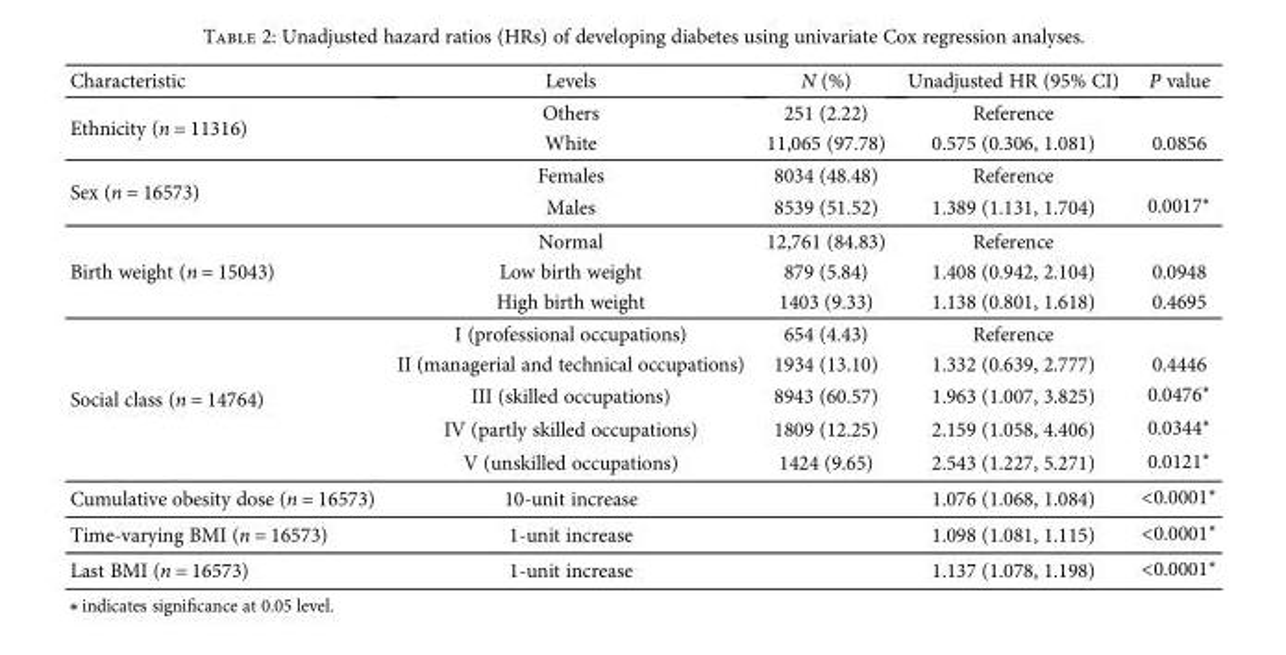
<table><thead><tr><td>Characteristic</td><td>Levels</td><td>N (%)</td><td>Unadjusted HR (95% CI)</td><td>P value</td></tr></thead><tbody><tr><td rowspan="2">Ethnicity (n = 11316)</td><td>Others</td><td>251 (2.22)</td><td>Reference</td><td></td></tr><tr><td>White</td><td>11,065 (97.78)</td><td>0.575 (0.306, 1.081)</td><td>0.0856</td></tr><tr><td rowspan="2">Sex (n = 16573)</td><td>Females</td><td>8034 (48.48)</td><td>Reference</td><td></td></tr><tr><td>Males</td><td>8539 (51.52)</td><td>1.389 (1.131, 1.704)</td><td>0.0017∗</td></tr><tr><td rowspan="3">Birth weight (n = 15043)</td><td>Normal</td><td>12,761 (84.83)</td><td>Reference</td><td></td></tr><tr><td>Low birth weight</td><td>879 (5.84)</td><td>1.408 (0.942, 2.104)</td><td>0.0948</td></tr><tr><td>High birth weight</td><td>1403 (9.33)</td><td>1.138 (0.801, 1.618)</td><td>0.4695</td></tr><tr><td rowspan="5">Social class (n = 14764)</td><td>I (professional occupations)</td><td>654 (4.43)</td><td>Reference</td><td></td></tr><tr><td>II (managerial and technical occupations)</td><td>1934 (13.10)</td><td>1.332 (0.639, 2.777)</td><td>0.4446</td></tr><tr><td>III (skilled occupations)</td><td>8943 (60.57)</td><td>1.963 (1.007, 3.825)</td><td>0.0476∗</td></tr><tr><td>IV (partly skilled occupations)</td><td>1809 (12.25)</td><td>2.159 (1.058, 4.406)</td><td>0.0344∗</td></tr><tr><td>V (unskilled occupations)</td><td>1424 (9.65)</td><td>2.543 (1.227, 5.271)</td><td>0.0121∗</td></tr><tr><td>Cumulative obesity dose (n = 16573)</td><td>10-unit increase</td><td></td><td>1.076 (1.068, 1.084)</td><td>&lt;0.0001∗</td></tr><tr><td>Time-varying BMI (n = 16573)</td><td>1-unit increase</td><td></td><td>1.098 (1.081, 1.115)</td><td>&lt;0.0001∗</td></tr><tr><td>Last BMI (n = 16573)</td><td>1-unit increase</td><td></td><td>1.137 (1.078, 1.198)</td><td>&lt;0.0001∗</td></tr></tbody></table>